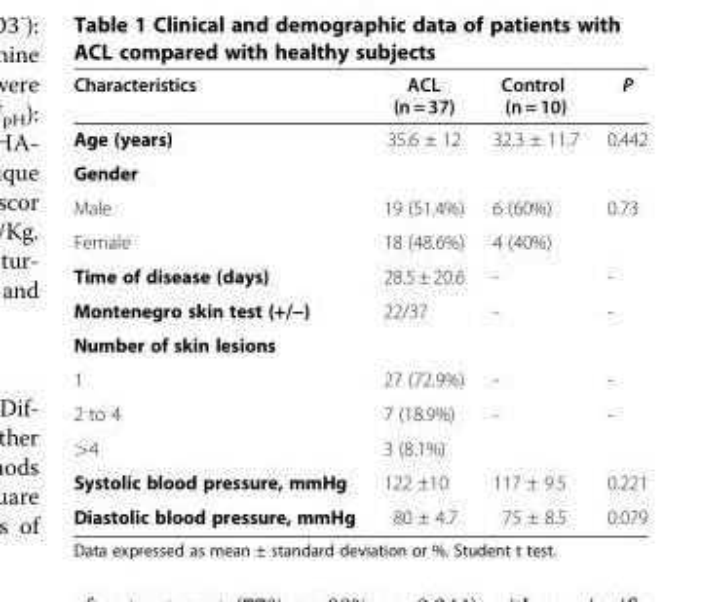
<table><thead><tr><td>Characteristics</td><td>ACL (n = 37)</td><td>Control (n = 10)</td><td>P</td></tr></thead><tbody><tr><td>Age (years)</td><td>35.6 ± 12</td><td>32.3 ± 11.7</td><td>0.442</td></tr><tr><td colspan="4">Gender</td></tr><tr><td>Male</td><td>19 (51.4%)</td><td>6 (60%)</td><td>0.73</td></tr><tr><td>Female</td><td>18 (48.6%)</td><td>4 (40%)</td><td></td></tr><tr><td>Time of disease (days)</td><td>28.5 ± 20.6</td><td>-</td><td>-</td></tr><tr><td>Montenegro skin test (+/−)</td><td>22/37</td><td>-</td><td>-</td></tr><tr><td colspan="4">Number of skin lesions</td></tr><tr><td>1</td><td>27 (72.9%)</td><td>-</td><td>-</td></tr><tr><td>2 to 4</td><td>7 (18.9%)</td><td>-</td><td>-</td></tr><tr><td>&gt;4</td><td>3 (8.1%)</td><td></td><td></td></tr><tr><td>Systolic blood pressure, mmHg</td><td>122 ±10</td><td>117 ± 9.5</td><td>0.221</td></tr><tr><td>Diastolic blood pressure, mmHg</td><td>80 ± 4.7</td><td>75 ± 8.5</td><td>0.079</td></tr></tbody></table>